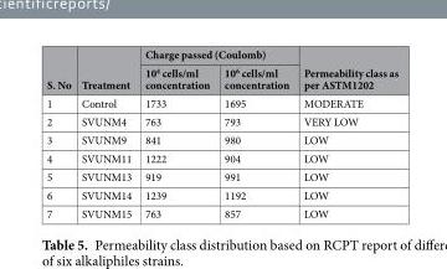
<table><thead><tr><td rowspan="2">S. No</td><td rowspan="2">Treatment</td><td colspan="2">Charge passed (Coulomb)</td><td rowspan="2">Permeability class as per ASTM1202</td></tr><tr><td>10<sup>4</sup> cells/ml concentration</td><td>10<sup>6</sup> cells/ml concentration</td></tr></thead><tbody><tr><td>1</td><td>Control</td><td>1733</td><td>1695</td><td>MODERATE</td></tr><tr><td>2</td><td>SVUNM4</td><td>763</td><td>793</td><td>VERY LOW</td></tr><tr><td>3</td><td>SVUNM9</td><td>841</td><td>980</td><td>LOW</td></tr><tr><td>4</td><td>SVUNM11</td><td>1222</td><td>904</td><td>LOW</td></tr><tr><td>5</td><td>SVUNM13</td><td>919</td><td>991</td><td>LOW</td></tr><tr><td>6</td><td>SVUNM14</td><td>1239</td><td>1192</td><td>LOW</td></tr><tr><td>7</td><td>SVUNM15</td><td>763</td><td>857</td><td>LOW</td></tr></tbody></table>